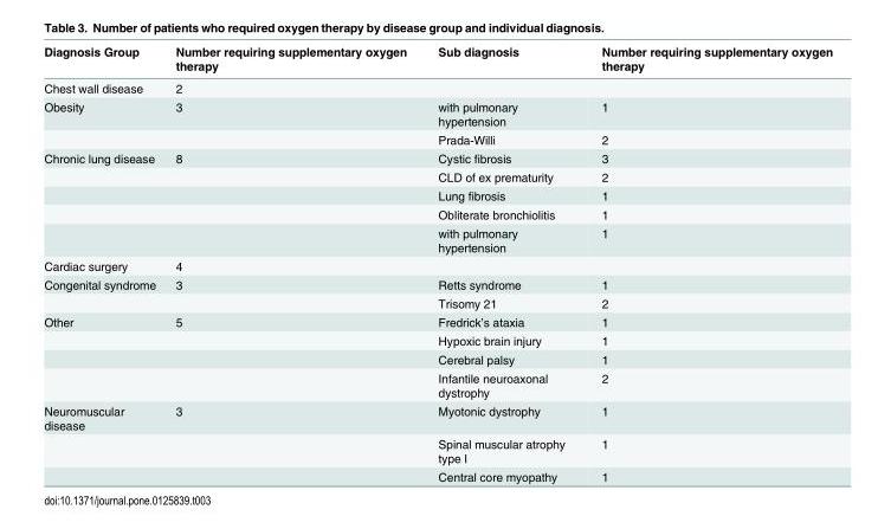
<table><thead><tr><td>Diagnosis Group</td><td>Number requiring supplementary oxygen therapy</td><td>Sub diagnosis</td><td>Number requiring supplementary oxygen therapy</td></tr></thead><tbody><tr><td>Chest wall disease</td><td>2</td><td colspan="2"></td></tr><tr><td rowspan="2">Obesity</td><td>3</td><td>with pulmonary hypertension</td><td>1</td></tr><tr><td></td><td>Prada-Willi</td><td>2</td></tr><tr><td rowspan="5">Chronic lung disease</td><td>8</td><td>Cystic fibrosis</td><td>3</td></tr><tr><td></td><td>CLD of ex prematurity</td><td>2</td></tr><tr><td></td><td>Lung fibrosis</td><td>1</td></tr><tr><td></td><td>Obliterate bronchiolitis</td><td>1</td></tr><tr><td></td><td>with pulmonary hypertension</td><td>1</td></tr><tr><td>Cardiac surgery</td><td>4</td><td colspan="2"></td></tr><tr><td rowspan="2">Congenital syndrome</td><td>3</td><td>Retts syndrome</td><td>1</td></tr><tr><td></td><td>Trisomy 21</td><td>2</td></tr><tr><td rowspan="4">Other</td><td>5</td><td>Fredrick’s ataxia</td><td>1</td></tr><tr><td></td><td>Hypoxic brain injury</td><td>1</td></tr><tr><td></td><td>Cerebral palsy</td><td>1</td></tr><tr><td></td><td>Infantile neuroaxonal dystrophy</td><td>2</td></tr><tr><td rowspan="3">Neuromuscular disease</td><td>3</td><td>Myotonic dystrophy</td><td>1</td></tr><tr><td></td><td>Spinal muscular atrophy type I</td><td>1</td></tr><tr><td></td><td>Central core myopathy</td><td>1</td></tr></tbody></table>